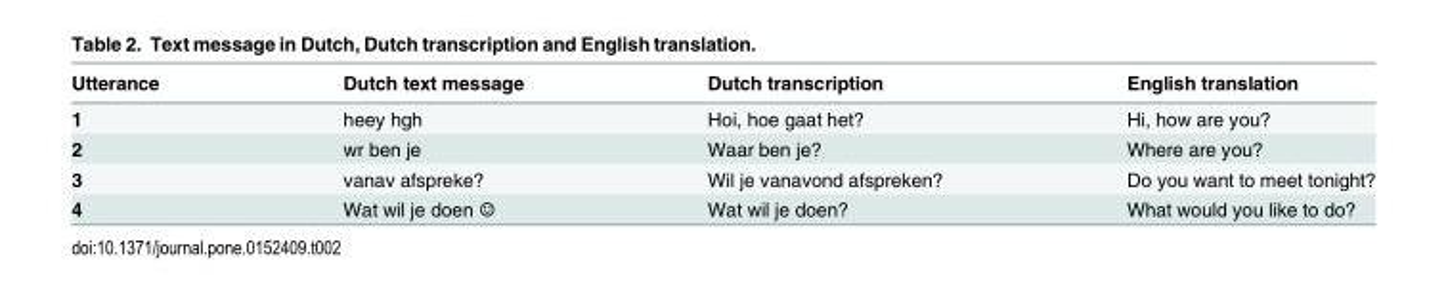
<table><thead><tr><td>Utterance</td><td>Dutch text message</td><td>Dutch transcription</td><td>English translation</td></tr></thead><tbody><tr><td>1</td><td>heey hgh</td><td>Hoi, hoe gaat het?</td><td>Hi, how are you?</td></tr><tr><td>2</td><td>wr ben je</td><td>Waar ben je?</td><td>Where are you?</td></tr><tr><td>3</td><td>vanav afspreke?</td><td>Wil je vanavond afspreken?</td><td>Do you want to meet tonight?</td></tr><tr><td>4</td><td>Wat wil je doen ☺</td><td>Wat wil je doen?</td><td>What would you like to do?</td></tr></tbody></table>